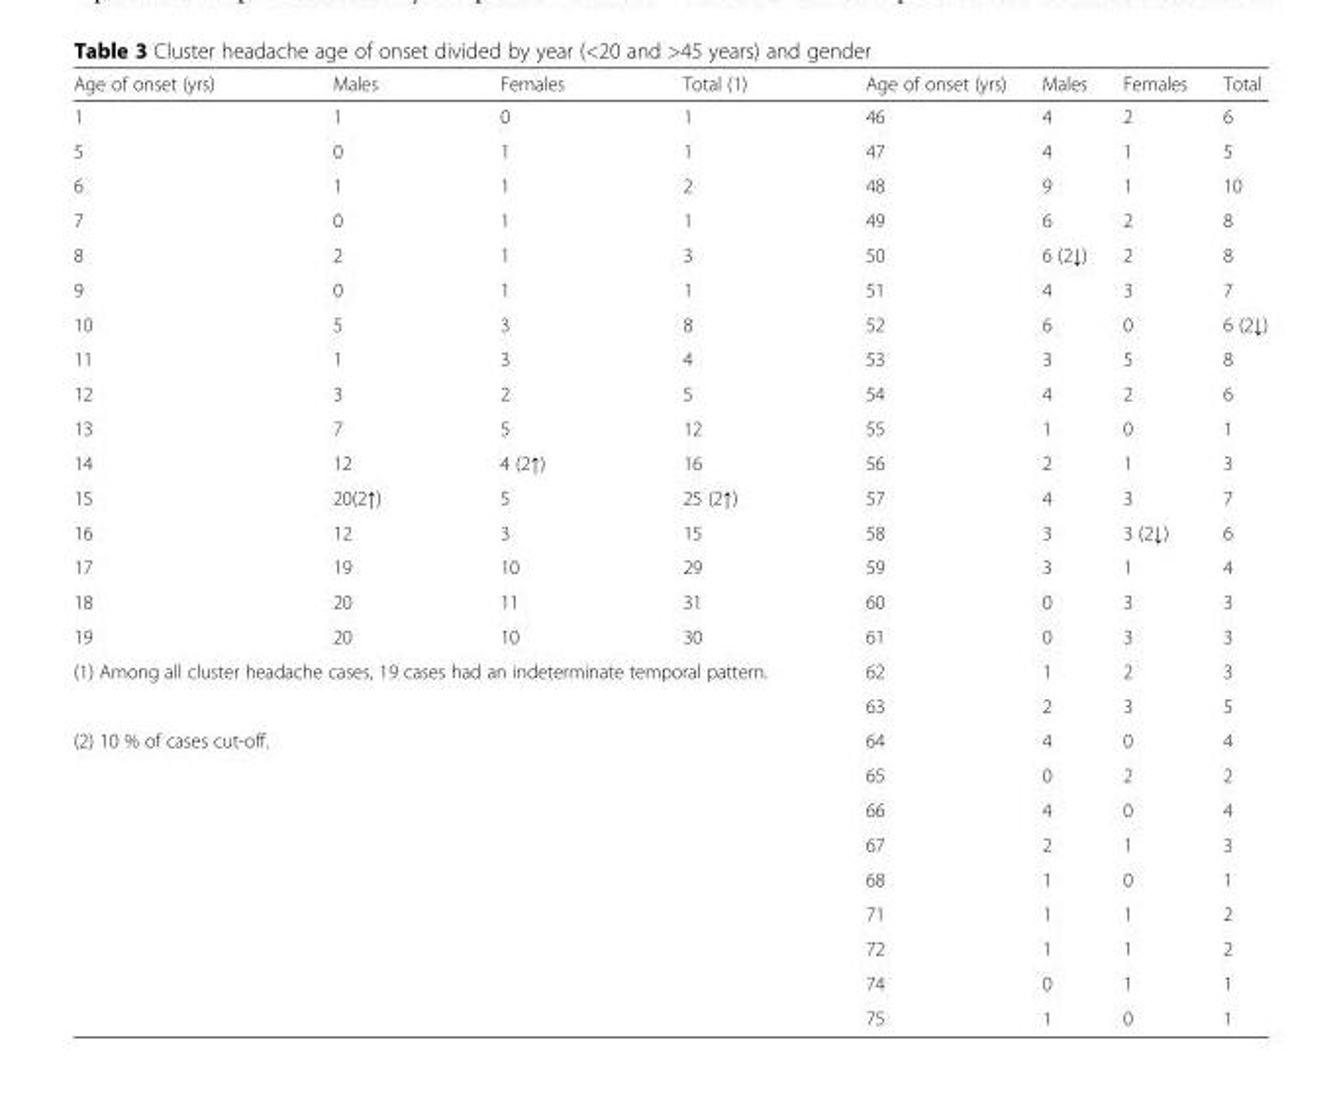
<table><thead><tr><td>Age of onset (yrs)</td><td>Males</td><td>Females</td><td>Total (1)</td><td>Age of onset (yrs)</td><td>Males</td><td>Females</td><td>Total</td></tr></thead><tbody><tr><td>1</td><td>1</td><td>0</td><td>1</td><td>46</td><td>4</td><td>2</td><td>6</td></tr><tr><td>5</td><td>0</td><td>1</td><td>1</td><td>47</td><td>4</td><td>1</td><td>5</td></tr><tr><td>6</td><td>1</td><td>1</td><td>2</td><td>48</td><td>9</td><td>1</td><td>10</td></tr><tr><td>7</td><td>0</td><td>1</td><td>1</td><td>49</td><td>6</td><td>2</td><td>8</td></tr><tr><td>8</td><td>2</td><td>1</td><td>3</td><td>50</td><td>6 (2↓)</td><td>2</td><td>8</td></tr><tr><td>9</td><td>0</td><td>1</td><td>1</td><td>51</td><td>4</td><td>3</td><td>7</td></tr><tr><td>10</td><td>5</td><td>3</td><td>8</td><td>52</td><td>6</td><td>0</td><td>6 (2↓)</td></tr><tr><td>11</td><td>1</td><td>3</td><td>4</td><td>53</td><td>3</td><td>5</td><td>8</td></tr><tr><td>12</td><td>3</td><td>2</td><td>5</td><td>54</td><td>4</td><td>2</td><td>6</td></tr><tr><td>13</td><td>7</td><td>5</td><td>12</td><td>55</td><td>1</td><td>0</td><td>1</td></tr><tr><td>14</td><td>12</td><td>4 (2↑)</td><td>16</td><td>56</td><td>2</td><td>1</td><td>3</td></tr><tr><td>15</td><td>20(2↑)</td><td>5</td><td>25 (2↑)</td><td>57</td><td>4</td><td>3</td><td>7</td></tr><tr><td>16</td><td>12</td><td>3</td><td>15</td><td>58</td><td>3</td><td>3 (2↓)</td><td>6</td></tr><tr><td>17</td><td>19</td><td>10</td><td>29</td><td>59</td><td>3</td><td>1</td><td>4</td></tr><tr><td>18</td><td>20</td><td>11</td><td>31</td><td>60</td><td>0</td><td>3</td><td>3</td></tr><tr><td>19</td><td>20</td><td>10</td><td>30</td><td>61</td><td>0</td><td>3</td><td>3</td></tr><tr><td rowspan="2" colspan="4">(1) Among all cluster headache cases, 19 cases had an indeterminate temporal pattern.</td><td>62</td><td>1</td><td>2</td><td>3</td></tr><tr><td>63</td><td>2</td><td>3</td><td>5</td></tr><tr><td colspan="4">(2) 10 % of cases cut-off.</td><td>64</td><td>4</td><td>0</td><td>4</td></tr><tr><td></td><td></td><td></td><td></td><td>65</td><td>0</td><td>2</td><td>2</td></tr><tr><td></td><td></td><td></td><td></td><td>66</td><td>4</td><td>0</td><td>4</td></tr><tr><td></td><td></td><td></td><td></td><td>67</td><td>2</td><td>1</td><td>3</td></tr><tr><td></td><td></td><td></td><td></td><td>68</td><td>1</td><td>0</td><td>1</td></tr><tr><td></td><td></td><td></td><td></td><td>71</td><td>1</td><td>1</td><td>2</td></tr><tr><td></td><td></td><td></td><td></td><td>72</td><td>1</td><td>1</td><td>2</td></tr><tr><td></td><td></td><td></td><td></td><td>74</td><td>0</td><td>1</td><td>1</td></tr><tr><td></td><td></td><td></td><td></td><td>75</td><td>1</td><td>0</td><td>1</td></tr></tbody></table>